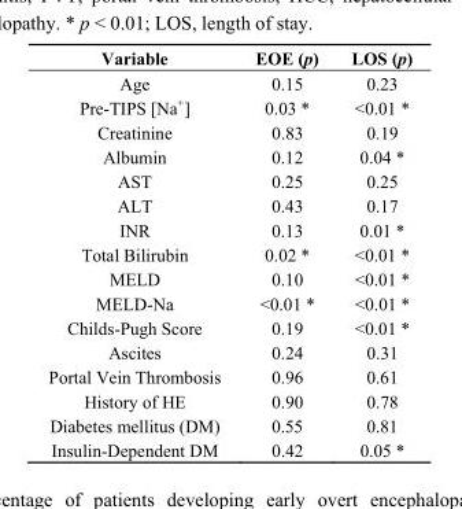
<table><thead><tr><td>Variable</td><td>EOE (p)</td><td>LOS (p)</td></tr></thead><tbody><tr><td>Age</td><td>0.15</td><td>0.23</td></tr><tr><td>Pre-TIPS [Na<sup>+</sup>]</td><td>0.03 *</td><td>&lt;0.01 *</td></tr><tr><td>Creatinine</td><td>0.83</td><td>0.19</td></tr><tr><td>Albumin</td><td>0.12</td><td>0.04 *</td></tr><tr><td>AST</td><td>0.25</td><td>0.25</td></tr><tr><td>ALT</td><td>0.43</td><td>0.17</td></tr><tr><td>INR</td><td>0.13</td><td>0.01 *</td></tr><tr><td>Total Bilirubin</td><td>0.02 *</td><td>&lt;0.01 *</td></tr><tr><td>MELD</td><td>0.10</td><td>&lt;0.01 *</td></tr><tr><td>MELD-Na</td><td>&lt;0.01 *</td><td>&lt;0.01 *</td></tr><tr><td>Childs-Pugh Score</td><td>0.19</td><td>&lt;0.01 *</td></tr><tr><td>Ascites</td><td>0.24</td><td>0.31</td></tr><tr><td>Portal Vein Thrombosis</td><td>0.96</td><td>0.61</td></tr><tr><td>History of HE</td><td>0.90</td><td>0.78</td></tr><tr><td>Diabetes mellitus (DM)</td><td>0.55</td><td>0.81</td></tr><tr><td>Insulin-Dependent DM</td><td>0.42</td><td>0.05 *</td></tr></tbody></table>